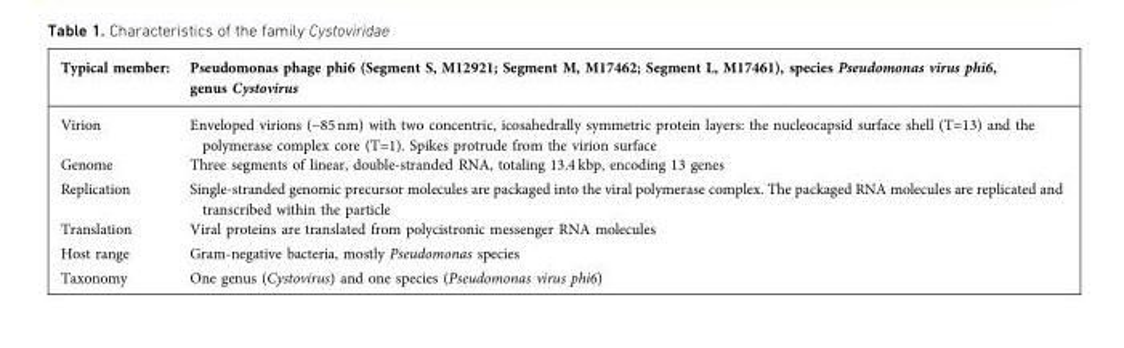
<table><thead><tr><td>Typical member:</td><td>Pseudomonas phage phi6 (Segment S, M12921; Segment M, M17462; Segment L, M17461), species Pseudomonas virus phi6, genus Cystovirus</td></tr></thead><tbody><tr><td>Virion</td><td>Enveloped virions (~85 nm) with two concentric, icosahedrally symmetric protein layers: the nucleocapsid surface shell (T=13) and the polymerase complex core (T=1). Spikes protrude from the virion surface</td></tr><tr><td>Genome</td><td>Three segments of linear, double-stranded RNA, totaling 13.4 kbp, encoding 13 genes</td></tr><tr><td>Replication</td><td>Single-stranded genomic precursor molecules are packaged into the viral polymerase complex. The packaged RNA molecules are replicated and transcribed within the particle</td></tr><tr><td>Translation</td><td>Viral proteins are translated from polycistronic messenger RNA molecules</td></tr><tr><td>Host range</td><td>Gram-negative bacteria, mostly Pseudomonas species</td></tr><tr><td>Taxonomy</td><td>One genus (Cystovirus) and one species (Pseudomonas virus phi6)</td></tr></tbody></table>